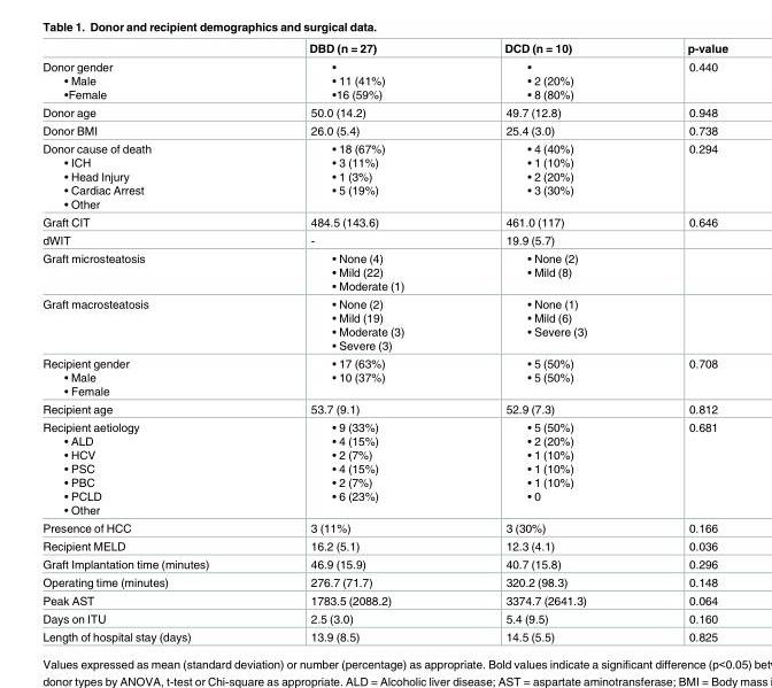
<table><thead><tr><td></td><td>DBD (n = 27)</td><td>DCD (n = 10)</td><td>p-value</td></tr></thead><tbody><tr><td>Donor gender • Male •Female</td><td>• • 11 (41%) •16 (59%)</td><td>• • 2 (20%) • 8 (80%)</td><td>0.440</td></tr><tr><td>Donor age</td><td>50.0 (14.2)</td><td>49.7 (12.8)</td><td>0.948</td></tr><tr><td>Donor BMI</td><td>26.0 (5.4)</td><td>25.4 (3.0)</td><td>0.738</td></tr><tr><td>Donor cause of death • ICH • Head Injury • Cardiac Arrest • Other</td><td>• 18 (67%) • 3 (11%) • 1 (3%) • 5 (19%)</td><td>• 4 (40%) • 1 (10%) • 2 (20%) • 3 (30%)</td><td>0.294</td></tr><tr><td>Graft CIT</td><td>484.5 (143.6)</td><td>461.0 (117)</td><td>0.646</td></tr><tr><td>dWIT</td><td>-</td><td>19.9 (5.7)</td><td></td></tr><tr><td>Graft microsteatosis</td><td>• None (4) • Mild (22) • Moderate (1)</td><td>• None (2) • Mild (8)</td><td></td></tr><tr><td>Graft macrosteatosis</td><td>• None (2) • Mild (19) • Moderate (3) • Severe (3)</td><td>• None (1) • Mild (6) • Severe (3)</td><td></td></tr><tr><td>Recipient gender • Male • Female</td><td>• 17 (63%) • 10 (37%)</td><td>• 5 (50%) • 5 (50%)</td><td>0.708</td></tr><tr><td>Recipient age</td><td>53.7 (9.1)</td><td>52.9 (7.3)</td><td>0.812</td></tr><tr><td>Recipient aetiology • ALD • HCV • PSC • PBC • PCLD • Other</td><td>• 9 (33%) • 4 (15%) • 2 (7%) • 4 (15%) • 2 (7%) • 6 (23%)</td><td>• 5 (50%) • 2 (20%) • 1 (10%) • 1 (10%) • 1 (10%) • 0</td><td>0.681</td></tr><tr><td>Presence of HCC</td><td>3 (11%)</td><td>3 (30%)</td><td>0.166</td></tr><tr><td>Recipient MELD</td><td>16.2 (5.1)</td><td>12.3 (4.1)</td><td>0.036</td></tr><tr><td>Graft Implantation time (minutes)</td><td>46.9 (15.9)</td><td>40.7 (15.8)</td><td>0.296</td></tr><tr><td>Operating time (minutes)</td><td>276.7 (71.7)</td><td>320.2 (98.3)</td><td>0.148</td></tr><tr><td>Peak AST</td><td>1783.5 (2088.2)</td><td>3374.7 (2641.3)</td><td>0.064</td></tr><tr><td>Days on ITU</td><td>2.5 (3.0)</td><td>5.4 (9.5)</td><td>0.160</td></tr><tr><td>Length of hospital stay (days)</td><td>13.9 (8.5)</td><td>14.5 (5.5)</td><td>0.825</td></tr></tbody></table>